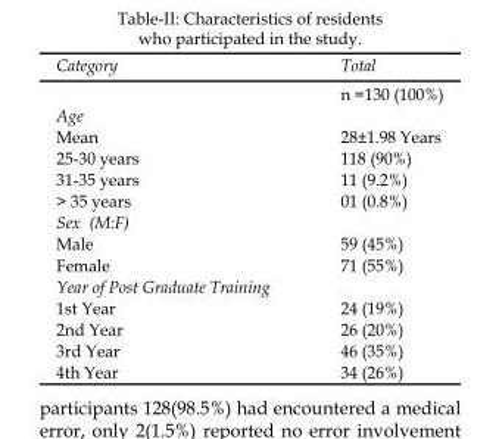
<table><thead><tr><td>Category</td><td>Total</td></tr></thead><tbody><tr><td></td><td>n =130 (100%)</td></tr><tr><td>Age Mean 25-30 years 31-35 years &gt; 35 years</td><td>28±1.98 Years 118 (90%) 11 (9.2%) 01 (0.8%)</td></tr><tr><td>Sex (M:F) Male Female</td><td>59 (45%) 71 (55%)</td></tr><tr><td>Year of Post Graduate Training 1st Year 2nd Year 3rd Year 4th Year</td><td>24 (19%) 26 (20%) 46 (35%) 34 (26%)</td></tr></tbody></table>